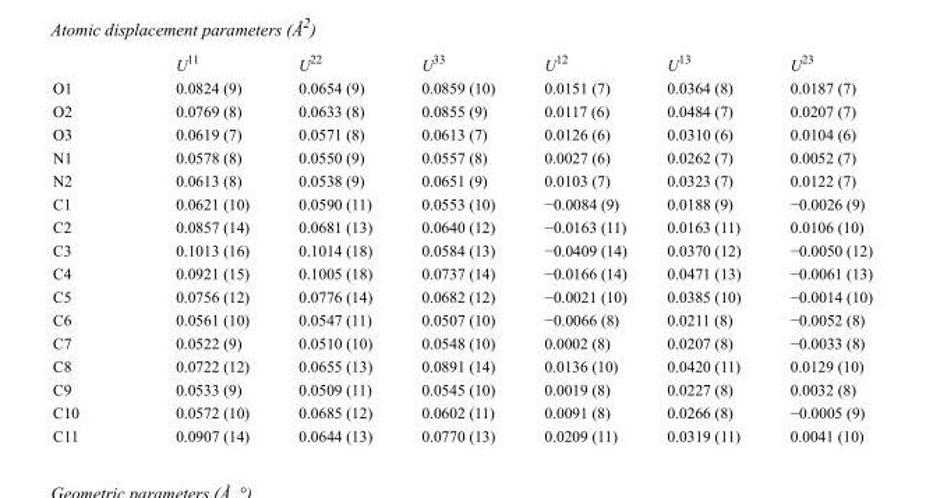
<table><thead><tr><td></td><td>U<sup>11</sup></td><td>U<sup>22</sup></td><td>U<sup>33</sup></td><td>U<sup>12</sup></td><td>U<sup>13</sup></td><td>U<sup>23</sup></td></tr></thead><tbody><tr><td>O1</td><td>0.0824 (9)</td><td>0.0654 (9)</td><td>0.0859 (10)</td><td>0.0151 (7)</td><td>0.0364 (8)</td><td>0.0187 (7)</td></tr><tr><td>O2</td><td>0.0769 (8)</td><td>0.0633 (8)</td><td>0.0855 (9)</td><td>0.0117 (6)</td><td>0.0484 (7)</td><td>0.0207 (7)</td></tr><tr><td>O3</td><td>0.0619 (7)</td><td>0.0571 (8)</td><td>0.0613 (7)</td><td>0.0126 (6)</td><td>0.0310 (6)</td><td>0.0104 (6)</td></tr><tr><td>N1</td><td>0.0578 (8)</td><td>0.0550 (9)</td><td>0.0557 (8)</td><td>0.0027 (6)</td><td>0.0262 (7)</td><td>0.0052 (7)</td></tr><tr><td>N2</td><td>0.0613 (8)</td><td>0.0538 (9)</td><td>0.0651 (9)</td><td>0.0103 (7)</td><td>0.0323 (7)</td><td>0.0122 (7)</td></tr><tr><td>C1</td><td>0.0621 (10)</td><td>0.0590 (11)</td><td>0.0553 (10)</td><td>−0.0084 (9)</td><td>0.0188 (9)</td><td>−0.0026 (9)</td></tr><tr><td>C2</td><td>0.0857 (14)</td><td>0.0681 (13)</td><td>0.0640 (12)</td><td>−0.0163 (11)</td><td>0.0163 (11)</td><td>0.0106 (10)</td></tr><tr><td>C3</td><td>0.1013 (16)</td><td>0.1014 (18)</td><td>0.0584 (13)</td><td>−0.0409 (14)</td><td>0.0370 (12)</td><td>−0.0050 (12)</td></tr><tr><td>C4</td><td>0.0921 (15)</td><td>0.1005 (18)</td><td>0.0737 (14)</td><td>−0.0166 (14)</td><td>0.0471 (13)</td><td>−0.0061 (13)</td></tr><tr><td>C5</td><td>0.0756 (12)</td><td>0.0776 (14)</td><td>0.0682 (12)</td><td>−0.0021 (10)</td><td>0.0385 (10)</td><td>−0.0014 (10)</td></tr><tr><td>C6</td><td>0.0561 (10)</td><td>0.0547 (11)</td><td>0.0507 (10)</td><td>−0.0066 (8)</td><td>0.0211 (8)</td><td>−0.0052 (8)</td></tr><tr><td>C7</td><td>0.0522 (9)</td><td>0.0510 (10)</td><td>0.0548 (10)</td><td>0.0002 (8)</td><td>0.0207 (8)</td><td>−0.0033 (8)</td></tr><tr><td>C8</td><td>0.0722 (12)</td><td>0.0655 (13)</td><td>0.0891 (14)</td><td>0.0136 (10)</td><td>0.0420 (11)</td><td>0.0129 (10)</td></tr><tr><td>C9</td><td>0.0533 (9)</td><td>0.0509 (11)</td><td>0.0545 (10)</td><td>0.0019 (8)</td><td>0.0227 (8)</td><td>0.0032 (8)</td></tr><tr><td>C10</td><td>0.0572 (10)</td><td>0.0685 (12)</td><td>0.0602 (11)</td><td>0.0091 (8)</td><td>0.0266 (8)</td><td>−0.0005 (9)</td></tr><tr><td>C11</td><td>0.0907 (14)</td><td>0.0644 (13)</td><td>0.0770 (13)</td><td>0.0209 (11)</td><td>0.0319 (11)</td><td>0.0041 (10)</td></tr></tbody></table>